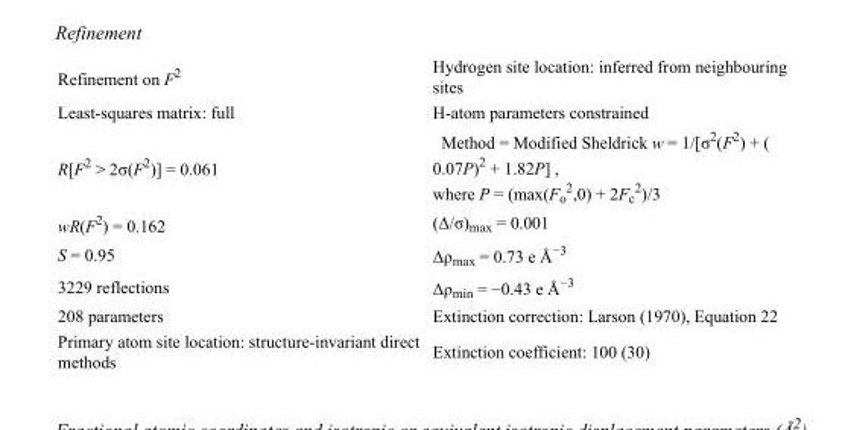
<table><tbody><tr><td>Refinement on F<sup>2</sup></td><td>Hydrogen site location: inferred from neighbouring sites</td></tr><tr><td>Least-squares matrix: full</td><td>H-atom parameters constrained</td></tr><tr><td>R[F<sup>2</sup> &gt; 2σ(F<sup>2</sup>)] = 0.061</td><td>Method = Modified Sheldrick w = 1/[σ<sup>2</sup>(F<sup>2</sup>) + ( 0.07P)<sup>2</sup> + 1.82P] , where P = (max(F<sub>o</sub> <sup>2</sup>,0) + 2F<sub>c</sub> <sup>2</sup>)/3</td></tr><tr><td>wR(F<sup>2</sup>) = 0.162</td><td>(Δ/σ)<sub>max</sub> = 0.001</td></tr><tr><td>S = 0.95</td><td>Δρ<sub>max</sub> = 0.73 e Å<sup>−3</sup></td></tr><tr><td>3229 reflections</td><td>Δρ<sub>min</sub> = −0.43 e Å<sup>−3</sup></td></tr><tr><td>208 parameters</td><td>Extinction correction: Larson (1970), Equation 22</td></tr><tr><td>Primary atom site location: structure-invariant direct methods</td><td>Extinction coefficient: 100 (30)</td></tr></tbody></table>